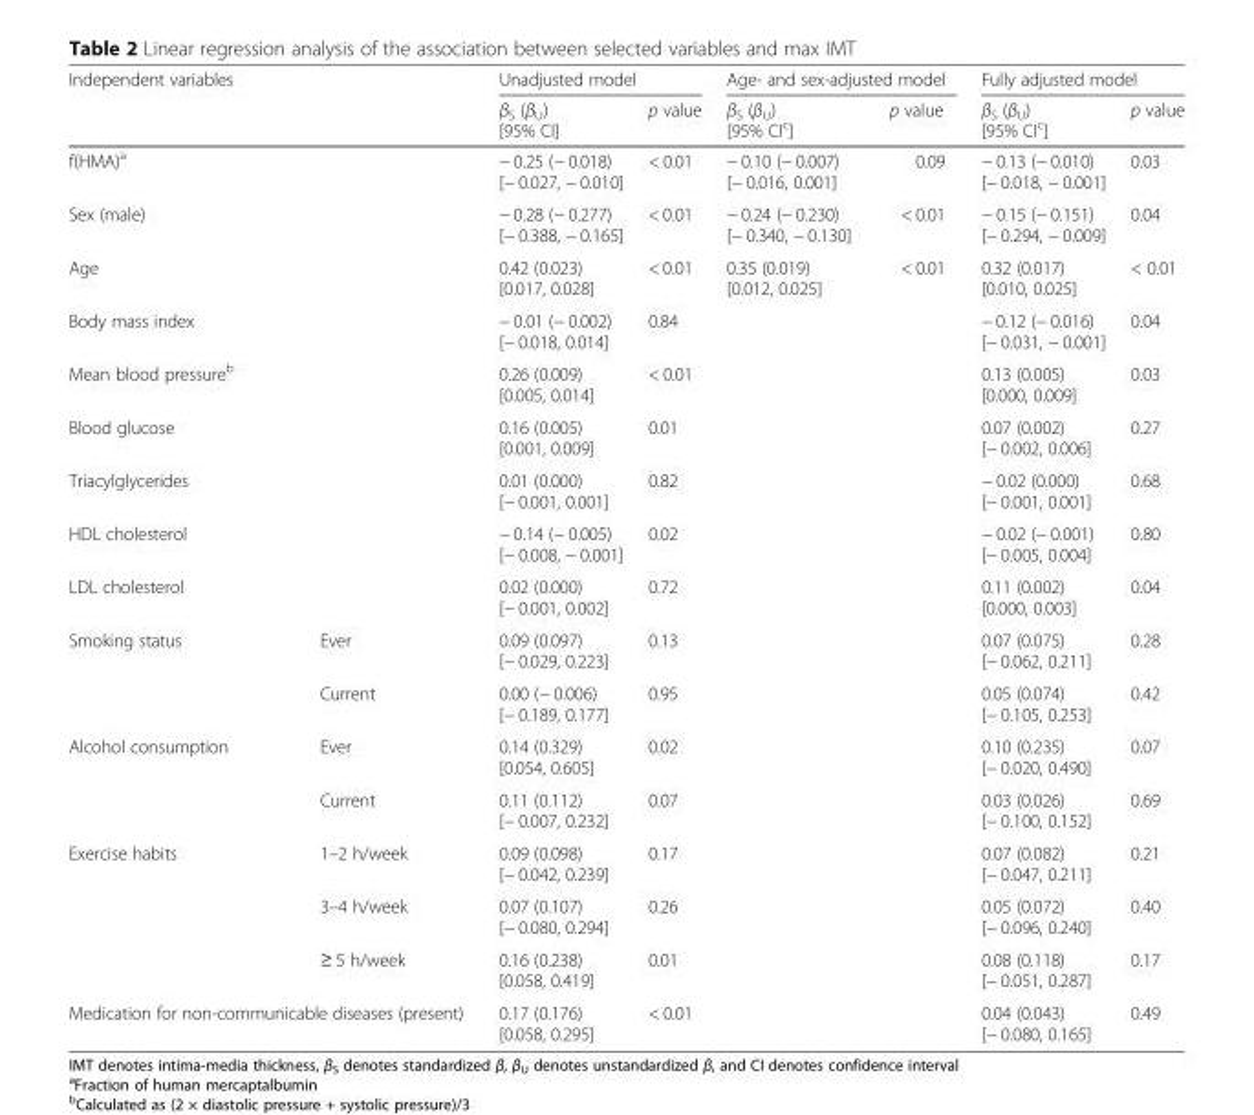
<table><thead><tr><td rowspan="2" colspan="2">Independent variables</td><td colspan="2">Unadjusted model</td><td colspan="2">Age- and sex-adjusted model</td><td colspan="2">Fully adjusted model</td></tr><tr><td>β<sub>S</sub> (β<sub>U</sub>) [95% CI]</td><td>p value</td><td>β<sub>S</sub> (β<sub>U</sub>) [95% CI<sup>c</sup>]</td><td>p value</td><td>β<sub>S</sub> (β<sub>U</sub>) [95% CI<sup>c</sup>]</td><td>p value</td></tr></thead><tbody><tr><td colspan="2">f(HMA)<sup>a</sup></td><td>− 0.25 (− 0.018) [− 0.027, − 0.010]</td><td>&lt; 0.01</td><td>− 0.10 (− 0.007) [− 0.016, 0.001]</td><td>0.09</td><td>− 0.13 (− 0.010) [− 0.018, − 0.001]</td><td>0.03</td></tr><tr><td colspan="2">Sex (male)</td><td>− 0.28 (− 0.277) [− 0.388, − 0.165]</td><td>&lt; 0.01</td><td>− 0.24 (− 0.230) [− 0.340, − 0.130]</td><td>&lt; 0.01</td><td>− 0.15 (− 0.151) [− 0.294, − 0.009]</td><td>0.04</td></tr><tr><td colspan="2">Age</td><td>0.42 (0.023) [0.017, 0.028]</td><td>&lt; 0.01</td><td>0.35 (0.019) [0.012, 0.025]</td><td>&lt; 0.01</td><td>0.32 (0.017) [0.010, 0.025]</td><td>&lt; 0.01</td></tr><tr><td colspan="2">Body mass index</td><td>− 0.01 (− 0.002) [− 0.018, 0.014]</td><td>0.84</td><td></td><td></td><td>− 0.12 (− 0.016) [− 0.031, − 0.001]</td><td>0.04</td></tr><tr><td colspan="2">Mean blood pressure<sup>b</sup></td><td>0.26 (0.009) [0.005, 0.014]</td><td>&lt; 0.01</td><td></td><td></td><td>0.13 (0.005) [0.000, 0.009]</td><td>0.03</td></tr><tr><td colspan="2">Blood glucose</td><td>0.16 (0.005) [0.001, 0.009]</td><td>0.01</td><td></td><td></td><td>0.07 (0.002) [− 0.002, 0.006]</td><td>0.27</td></tr><tr><td colspan="2">Triacylglycerides</td><td>0.01 (0.000) [− 0.001, 0.001]</td><td>0.82</td><td></td><td></td><td>− 0.02 (0.000) [− 0.001, 0.001]</td><td>0.68</td></tr><tr><td colspan="2">HDL cholesterol</td><td>− 0.14 (− 0.005) [− 0.008, − 0.001]</td><td>0.02</td><td></td><td></td><td>− 0.02 (− 0.001) [− 0.005, 0.004]</td><td>0.80</td></tr><tr><td colspan="2">LDL cholesterol</td><td>0.02 (0.000) [− 0.001, 0.002]</td><td>0.72</td><td></td><td></td><td>0.11 (0.002) [0.000, 0.003]</td><td>0.04</td></tr><tr><td rowspan="2">Smoking status</td><td>Ever</td><td>0.09 (0.097) [− 0.029, 0.223]</td><td>0.13</td><td></td><td></td><td>0.07 (0.075) [− 0.062, 0.211]</td><td>0.28</td></tr><tr><td>Current</td><td>0.00 (− 0.006) [− 0.189, 0.177]</td><td>0.95</td><td></td><td></td><td>0.05 (0.074) [− 0.105, 0.253]</td><td>0.42</td></tr><tr><td rowspan="2">Alcohol consumption</td><td>Ever</td><td>0.14 (0.329) [0.054, 0.605]</td><td>0.02</td><td></td><td></td><td>0.10 (0.235) [− 0.020, 0.490]</td><td>0.07</td></tr><tr><td>Current</td><td>0.11 (0.112) [− 0.007, 0.232]</td><td>0.07</td><td></td><td></td><td>0.03 (0.026) [− 0.100, 0.152]</td><td>0.69</td></tr><tr><td rowspan="3">Exercise habits</td><td>1–2 h/week</td><td>0.09 (0.098) [− 0.042, 0.239]</td><td>0.17</td><td></td><td></td><td>0.07 (0.082) [− 0.047, 0.211]</td><td>0.21</td></tr><tr><td>3–4 h/week</td><td>0.07 (0.107) [− 0.080, 0.294]</td><td>0.26</td><td></td><td></td><td>0.05 (0.072) [− 0.096, 0.240]</td><td>0.40</td></tr><tr><td>≥ 5 h/week</td><td>0.16 (0.238) [0.058, 0.419]</td><td>0.01</td><td></td><td></td><td>0.08 (0.118) [− 0.051, 0.287]</td><td>0.17</td></tr><tr><td colspan="2">Medication for non-communicable diseases (present)</td><td>0.17 (0.176) [0.058, 0.295]</td><td>&lt; 0.01</td><td></td><td></td><td>0.04 (0.043) [− 0.080, 0.165]</td><td>0.49</td></tr></tbody></table>